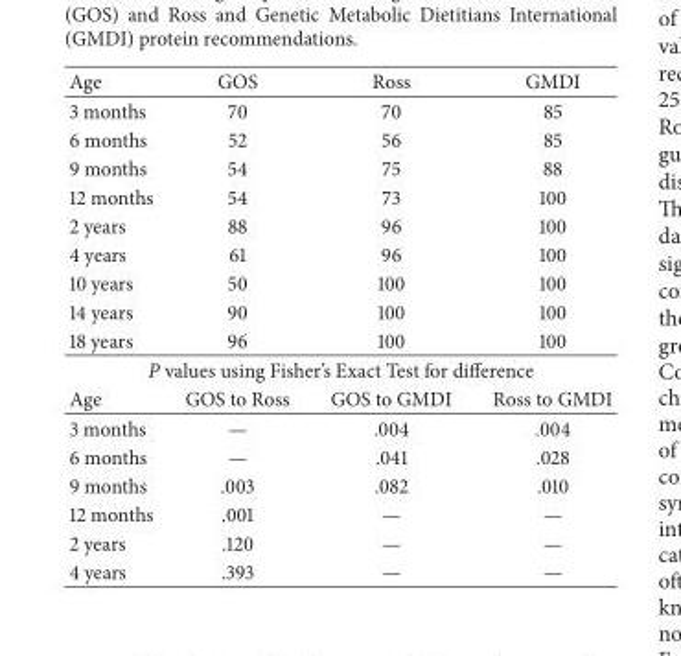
<table><thead><tr><td>Age</td><td>GOS</td><td>Ross</td><td>GMDI</td></tr></thead><tbody><tr><td>3 months</td><td>70</td><td>70</td><td>85</td></tr><tr><td>6 months</td><td>52</td><td>56</td><td>85</td></tr><tr><td>9 months</td><td>54</td><td>75</td><td>88</td></tr><tr><td>12 months</td><td>54</td><td>73</td><td>100</td></tr><tr><td>2 years</td><td>88</td><td>96</td><td>100</td></tr><tr><td>4 years</td><td>61</td><td>96</td><td>100</td></tr><tr><td>10 years</td><td>50</td><td>100</td><td>100</td></tr><tr><td>14 years</td><td>90</td><td>100</td><td>100</td></tr><tr><td>18 years</td><td>96</td><td>100</td><td>100</td></tr><tr><td colspan="4">P values using Fisher’s Exact Test for difference</td></tr><tr><td>Age</td><td>GOS to Ross</td><td>GOS to GMDI</td><td>Ross to GMDI</td></tr><tr><td>3 months</td><td>—</td><td>.004</td><td>.004</td></tr><tr><td>6 months</td><td>—</td><td>.041</td><td>.028</td></tr><tr><td>9 months</td><td>.003</td><td>.082</td><td>.010</td></tr><tr><td>12 months</td><td>.001</td><td>—</td><td>—</td></tr><tr><td>2 years</td><td>.120</td><td>—</td><td>—</td></tr><tr><td>4 years</td><td>.393</td><td>—</td><td>—</td></tr></tbody></table>